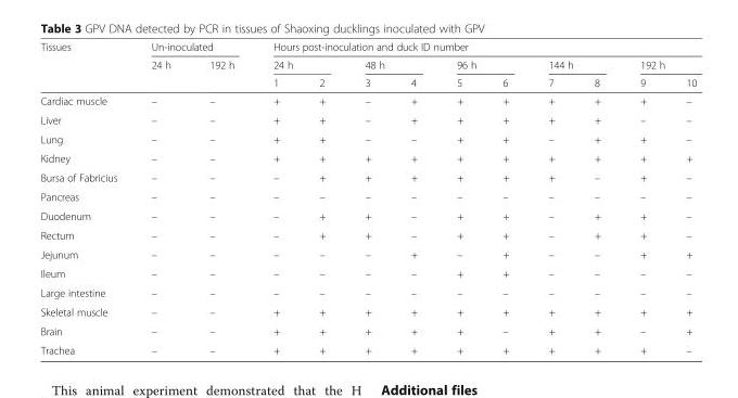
<table><thead><tr><td rowspan="3">Tissues</td><td colspan="2">Un-inoculated</td><td colspan="10">Hours post-inoculation and duck ID number</td></tr><tr><td rowspan="2">24 h</td><td rowspan="2">192 h</td><td colspan="2">24 h</td><td colspan="2">48 h</td><td colspan="2">96 h</td><td colspan="2">144 h</td><td colspan="2">192 h</td></tr><tr><td>1</td><td>2</td><td>3</td><td>4</td><td>5</td><td>6</td><td>7</td><td>8</td><td>9</td><td>10</td></tr></thead><tbody><tr><td>Cardiac muscle</td><td>–</td><td>–</td><td>+</td><td>+</td><td>–</td><td>+</td><td>+</td><td>+</td><td>+</td><td>+</td><td>+</td><td>–</td></tr><tr><td>Liver</td><td>–</td><td>–</td><td>+</td><td>+</td><td>–</td><td>+</td><td>+</td><td>+</td><td>+</td><td>+</td><td>–</td><td>–</td></tr><tr><td>Lung</td><td>–</td><td>–</td><td>+</td><td>+</td><td>–</td><td>–</td><td>+</td><td>+</td><td>–</td><td>+</td><td>+</td><td>–</td></tr><tr><td>Kidney</td><td>–</td><td>–</td><td>+</td><td>+</td><td>+</td><td>+</td><td>+</td><td>+</td><td>+</td><td>+</td><td>+</td><td>+</td></tr><tr><td>Bursa of Fabricius</td><td>–</td><td>–</td><td>–</td><td>+</td><td>+</td><td>+</td><td>+</td><td>+</td><td>+</td><td>–</td><td>+</td><td>–</td></tr><tr><td>Pancreas</td><td>–</td><td>–</td><td>–</td><td>–</td><td>–</td><td>–</td><td>–</td><td>–</td><td>–</td><td>–</td><td>–</td><td>–</td></tr><tr><td>Duodenum</td><td>–</td><td>–</td><td>–</td><td>+</td><td>+</td><td>–</td><td>+</td><td>+</td><td>–</td><td>+</td><td>+</td><td>–</td></tr><tr><td>Rectum</td><td>–</td><td>–</td><td>–</td><td>+</td><td>+</td><td>–</td><td>+</td><td>+</td><td>–</td><td>+</td><td>+</td><td>–</td></tr><tr><td>Jejunum</td><td>–</td><td>–</td><td>–</td><td>–</td><td>–</td><td>+</td><td>–</td><td>+</td><td>–</td><td>–</td><td>+</td><td>+</td></tr><tr><td>Ileum</td><td>–</td><td>–</td><td>–</td><td>–</td><td>–</td><td>–</td><td>+</td><td>+</td><td>–</td><td>–</td><td>–</td><td>–</td></tr><tr><td>Large intestine</td><td>–</td><td>–</td><td>–</td><td>–</td><td>–</td><td>–</td><td>–</td><td>–</td><td>–</td><td>–</td><td>–</td><td>–</td></tr><tr><td>Skeletal muscle</td><td>–</td><td>–</td><td>+</td><td>+</td><td>+</td><td>+</td><td>+</td><td>+</td><td>+</td><td>+</td><td>+</td><td>+</td></tr><tr><td>Brain</td><td>–</td><td>–</td><td>+</td><td>+</td><td>+</td><td>+</td><td>+</td><td>–</td><td>+</td><td>+</td><td>–</td><td>+</td></tr><tr><td>Trachea</td><td>–</td><td>–</td><td>+</td><td>+</td><td>+</td><td>+</td><td>+</td><td>+</td><td>+</td><td>+</td><td>+</td><td>–</td></tr></tbody></table>